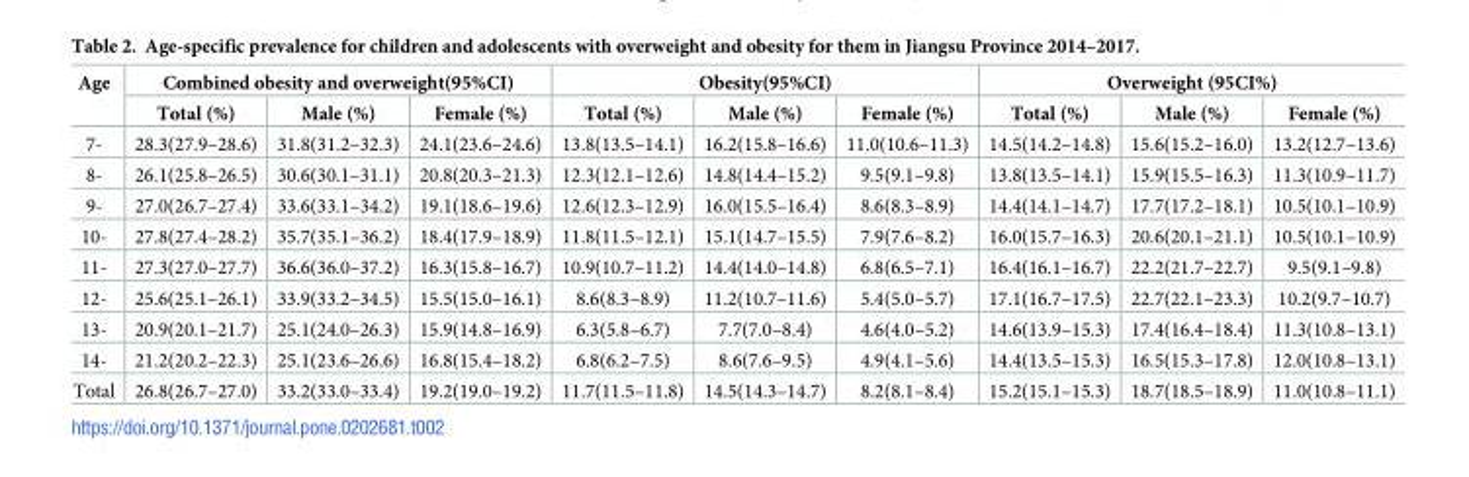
<table><thead><tr><td rowspan="2">Age</td><td colspan="3">Combined obesity and overweight(95%CI)</td><td colspan="3">Obesity(95%CI)</td><td colspan="3">Overweight (95CI%)</td></tr><tr><td>Total (%)</td><td>Male (%)</td><td>Female (%)</td><td>Total (%)</td><td>Male (%)</td><td>Female (%)</td><td>Total (%)</td><td>Male (%)</td><td>Female (%)</td></tr></thead><tbody><tr><td>7-</td><td>28.3(27.9–28.6)</td><td>31.8(31.2–32.3)</td><td>24.1(23.6–24.6)</td><td>13.8(13.5–14.1)</td><td>16.2(15.8–16.6)</td><td>11.0(10.6–11.3)</td><td>14.5(14.2–14.8)</td><td>15.6(15.2–16.0)</td><td>13.2(12.7–13.6)</td></tr><tr><td>8-</td><td>26.1(25.8–26.5)</td><td>30.6(30.1–31.1)</td><td>20.8(20.3–21.3)</td><td>12.3(12.1–12.6)</td><td>14.8(14.4–15.2)</td><td>9.5(9.1–9.8)</td><td>13.8(13.5–14.1)</td><td>15.9(15.5–16.3)</td><td>11.3(10.9–11.7)</td></tr><tr><td>9-</td><td>27.0(26.7–27.4)</td><td>33.6(33.1–34.2)</td><td>19.1(18.6–19.6)</td><td>12.6(12.3–12.9)</td><td>16.0(15.5–16.4)</td><td>8.6(8.3–8.9)</td><td>14.4(14.1–14.7)</td><td>17.7(17.2–18.1)</td><td>10.5(10.1–10.9)</td></tr><tr><td>10-</td><td>27.8(27.4–28.2)</td><td>35.7(35.1–36.2)</td><td>18.4(17.9–18.9)</td><td>11.8(11.5–12.1)</td><td>15.1(14.7–15.5)</td><td>7.9(7.6–8.2)</td><td>16.0(15.7–16.3)</td><td>20.6(20.1–21.1)</td><td>10.5(10.1–10.9)</td></tr><tr><td>11-</td><td>27.3(27.0–27.7)</td><td>36.6(36.0–37.2)</td><td>16.3(15.8–16.7)</td><td>10.9(10.7–11.2)</td><td>14.4(14.0–14.8)</td><td>6.8(6.5–7.1)</td><td>16.4(16.1–16.7)</td><td>22.2(21.7–22.7)</td><td>9.5(9.1–9.8)</td></tr><tr><td>12-</td><td>25.6(25.1–26.1)</td><td>33.9(33.2–34.5)</td><td>15.5(15.0–16.1)</td><td>8.6(8.3–8.9)</td><td>11.2(10.7–11.6)</td><td>5.4(5.0–5.7)</td><td>17.1(16.7–17.5)</td><td>22.7(22.1–23.3)</td><td>10.2(9.7–10.7)</td></tr><tr><td>13-</td><td>20.9(20.1–21.7)</td><td>25.1(24.0–26.3)</td><td>15.9(14.8–16.9)</td><td>6.3(5.8–6.7)</td><td>7.7(7.0–8.4)</td><td>4.6(4.0–5.2)</td><td>14.6(13.9–15.3)</td><td>17.4(16.4–18.4)</td><td>11.3(10.8–13.1)</td></tr><tr><td>14-</td><td>21.2(20.2–22.3)</td><td>25.1(23.6–26.6)</td><td>16.8(15.4–18.2)</td><td>6.8(6.2–7.5)</td><td>8.6(7.6–9.5)</td><td>4.9(4.1–5.6)</td><td>14.4(13.5–15.3)</td><td>16.5(15.3–17.8)</td><td>12.0(10.8–13.1)</td></tr><tr><td>Total</td><td>26.8(26.7–27.0)</td><td>33.2(33.0–33.4)</td><td>19.2(19.0–19.2)</td><td>11.7(11.5–11.8)</td><td>14.5(14.3–14.7)</td><td>8.2(8.1–8.4)</td><td>15.2(15.1–15.3)</td><td>18.7(18.5–18.9)</td><td>11.0(10.8–11.1)</td></tr></tbody></table>